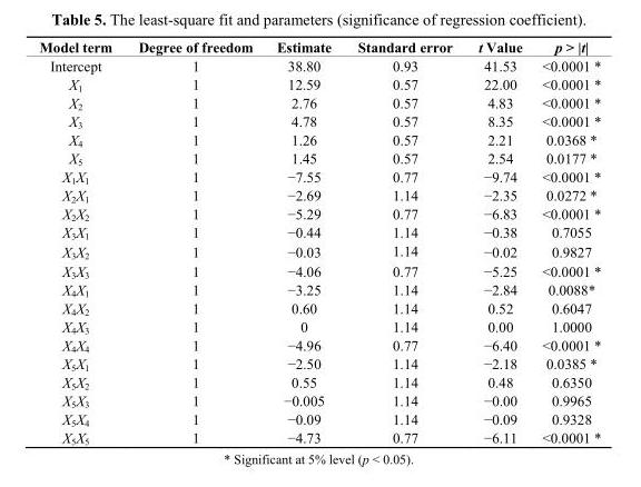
<table><thead><tr><td>Model term</td><td>Degree of freedom</td><td>Estimate</td><td>Standard error</td><td>t Value</td><td>p &gt; |t|</td></tr></thead><tbody><tr><td>Intercept</td><td>1</td><td>38.80</td><td>0.93</td><td>41.53</td><td>&lt;0.0001 *</td></tr><tr><td>X<sub>1</sub></td><td>1</td><td>12.59</td><td>0.57</td><td>22.00</td><td>&lt;0.0001 *</td></tr><tr><td>X<sub>2</sub></td><td>1</td><td>2.76</td><td>0.57</td><td>4.83</td><td>&lt;0.0001 *</td></tr><tr><td>X<sub>3</sub></td><td>1</td><td>4.78</td><td>0.57</td><td>8.35</td><td>&lt;0.0001 *</td></tr><tr><td>X<sub>4</sub></td><td>1</td><td>1.26</td><td>0.57</td><td>2.21</td><td>0.0368 *</td></tr><tr><td>X<sub>5</sub></td><td>1</td><td>1.45</td><td>0.57</td><td>2.54</td><td>0.0177 *</td></tr><tr><td>X<sub>1</sub>X<sub>1</sub></td><td>1</td><td>−7.55</td><td>0.77</td><td>−9.74</td><td>&lt;0.0001 *</td></tr><tr><td>X<sub>2</sub>X<sub>1</sub></td><td>1</td><td>−2.69</td><td>1.14</td><td>−2.35</td><td>0.0272 *</td></tr><tr><td>X<sub>2</sub>X<sub>2</sub></td><td>1</td><td>−5.29</td><td>0.77</td><td>−6.83</td><td>&lt;0.0001 *</td></tr><tr><td>X<sub>3</sub>X<sub>1</sub></td><td>1</td><td>−0.44</td><td>1.14</td><td>−0.38</td><td>0.7055</td></tr><tr><td>X<sub>3</sub>X<sub>2</sub></td><td>1</td><td>−0.03</td><td>1.14</td><td>−0.02</td><td>0.9827</td></tr><tr><td>X<sub>3</sub>X<sub>3</sub></td><td>1</td><td>−4.06</td><td>0.77</td><td>−5.25</td><td>&lt;0.0001 *</td></tr><tr><td>X<sub>4</sub>X<sub>1</sub></td><td>1</td><td>−3.25</td><td>1.14</td><td>−2.84</td><td>0.0088*</td></tr><tr><td>X<sub>4</sub>X<sub>2</sub></td><td>1</td><td>0.60</td><td>1.14</td><td>0.52</td><td>0.6047</td></tr><tr><td>X<sub>4</sub>X<sub>3</sub></td><td>1</td><td>0</td><td>1.14</td><td>0.00</td><td>1.0000</td></tr><tr><td>X<sub>4</sub>X<sub>4</sub></td><td>1</td><td>−4.96</td><td>0.77</td><td>−6.40</td><td>&lt;0.0001 *</td></tr><tr><td>X<sub>5</sub>X<sub>1</sub></td><td>1</td><td>−2.50</td><td>1.14</td><td>−2.18</td><td>0.0385 *</td></tr><tr><td>X<sub>5</sub>X<sub>2</sub></td><td>1</td><td>0.55</td><td>1.14</td><td>0.48</td><td>0.6350</td></tr><tr><td>X<sub>5</sub>X<sub>3</sub></td><td>1</td><td>−0.005</td><td>1.14</td><td>−0.00</td><td>0.9965</td></tr><tr><td>X<sub>5</sub>X<sub>4</sub></td><td>1</td><td>−0.09</td><td>1.14</td><td>−0.09</td><td>0.9328</td></tr><tr><td>X<sub>5</sub>X<sub>5</sub></td><td>1</td><td>−4.73</td><td>0.77</td><td>−6.11</td><td>&lt;0.0001 *</td></tr></tbody></table>